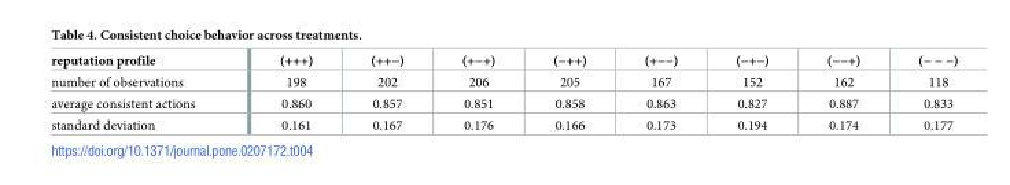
<table><thead><tr><td>reputation profile</td><td>(+++)</td><td>(++−)</td><td>(+−+)</td><td>(−++)</td><td>(+−−)</td><td>(−+−)</td><td>(−−+)</td><td>(− − −)</td></tr></thead><tbody><tr><td>number of observations</td><td>198</td><td>202</td><td>206</td><td>205</td><td>167</td><td>152</td><td>162</td><td>118</td></tr><tr><td>average consistent actions</td><td>0.860</td><td>0.857</td><td>0.851</td><td>0.858</td><td>0.863</td><td>0.827</td><td>0.887</td><td>0.833</td></tr><tr><td>standard deviation</td><td>0.161</td><td>0.167</td><td>0.176</td><td>0.166</td><td>0.173</td><td>0.194</td><td>0.174</td><td>0.177</td></tr></tbody></table>